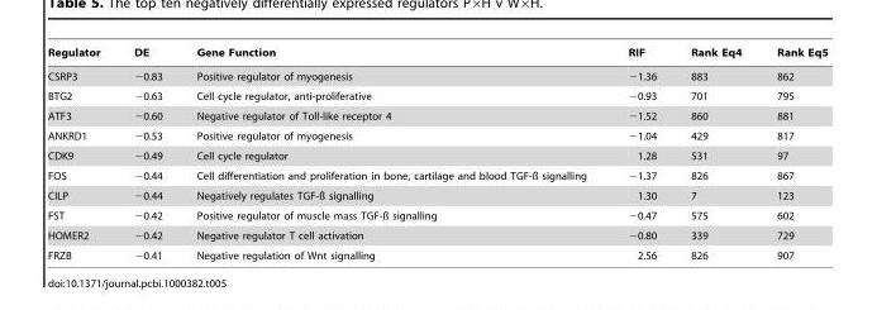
<table><thead><tr><td>Regulator</td><td>DE</td><td>Gene Function</td><td>RIF</td><td>Rank Eq4</td><td>Rank Eq5</td></tr></thead><tbody><tr><td>CSRP3</td><td>−0.83</td><td>Positive regulator of myogenesis</td><td>−1.36</td><td>883</td><td>862</td></tr><tr><td>BTG2</td><td>−0.63</td><td>Cell cycle regulator, anti-proliferative</td><td>−0.93</td><td>701</td><td>795</td></tr><tr><td>ATF3</td><td>−0.60</td><td>Negative regulator of Toll-like receptor 4</td><td>−1.52</td><td>860</td><td>881</td></tr><tr><td>ANKRD1</td><td>−0.53</td><td>Positive regulator of myogenesis</td><td>−1.04</td><td>429</td><td>817</td></tr><tr><td>CDK9</td><td>−0.49</td><td>Cell cycle regulator</td><td>1.28</td><td>531</td><td>97</td></tr><tr><td>FOS</td><td>−0.44</td><td>Cell differentiation and proliferation in bone, cartilage and blood TGF-ß signalling</td><td>−1.37</td><td>826</td><td>867</td></tr><tr><td>CILP</td><td>−0.44</td><td>Negatively regulates TGF-ß signalling</td><td>1.30</td><td>7</td><td>123</td></tr><tr><td>FST</td><td>−0.42</td><td>Positive regulator of muscle mass TGF-ß signalling</td><td>−0.47</td><td>575</td><td>602</td></tr><tr><td>HOMER2</td><td>−0.42</td><td>Negative regulator T cell activation</td><td>−0.80</td><td>339</td><td>729</td></tr><tr><td>FRZB</td><td>−0.41</td><td>Negative regulation of Wnt signalling</td><td>2.56</td><td>826</td><td>907</td></tr></tbody></table>